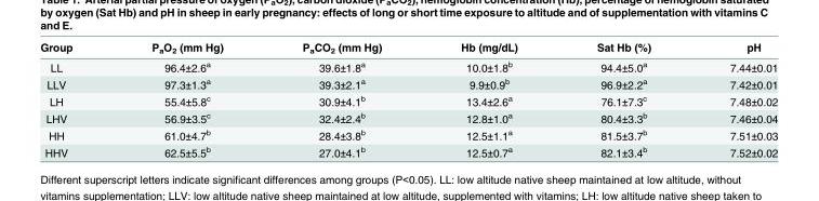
<table><thead><tr><td>Group</td><td>P<sub>a</sub>O<sub>2</sub> (mm Hg)</td><td>P<sub>a</sub>CO<sub>2</sub> (mm Hg)</td><td>Hb (mg/dL)</td><td>Sat Hb (%)</td><td>pH</td></tr></thead><tbody><tr><td>LL</td><td>96.4±2.6<sup>a</sup></td><td>39.6±1.8<sup>a</sup></td><td>10.0±1.8<sup>b</sup></td><td>94.4±5.0<sup>a</sup></td><td>7.44±0.01</td></tr><tr><td>LLV</td><td>97.3±1.3<sup>a</sup></td><td>39.3±2.1<sup>a</sup></td><td>9.9±0.9<sup>b</sup></td><td>96.9±2.2<sup>a</sup></td><td>7.42±0.01</td></tr><tr><td>LH</td><td>55.4±5.8<sup>c</sup></td><td>30.9±4.1<sup>b</sup></td><td>13.4±2.6<sup>a</sup></td><td>76.1±7.3<sup>c</sup></td><td>7.48±0.02</td></tr><tr><td>LHV</td><td>56.9±3.5<sup>c</sup></td><td>32.4±2.4<sup>b</sup></td><td>12.8±1.0<sup>a</sup></td><td>80.4±3.3<sup>b</sup></td><td>7.46±0.04</td></tr><tr><td>HH</td><td>61.0±4.7<sup>b</sup></td><td>28.4±3.8<sup>b</sup></td><td>12.5±1.1<sup>a</sup></td><td>81.5±3.7<sup>b</sup></td><td>7.51±0.03</td></tr><tr><td>HHV</td><td>62.5±5.5<sup>b</sup></td><td>27.0±4.1<sup>b</sup></td><td>12.5±0.7<sup>a</sup></td><td>82.1±3.4<sup>b</sup></td><td>7.52±0.02</td></tr></tbody></table>